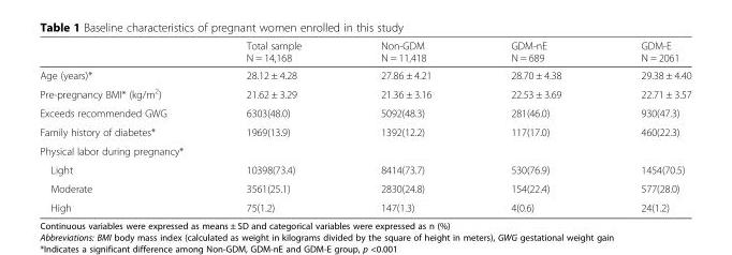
<table><thead><tr><td></td><td>Total sample N = 14,168</td><td>Non-GDM N = 11,418</td><td>GDM-nE N = 689</td><td>GDM-E N = 2061</td></tr></thead><tbody><tr><td>Age (years)*</td><td>28.12 ± 4.28</td><td>27.86 ± 4.21</td><td>28.70 ± 4.38</td><td>29.38 ± 4.40</td></tr><tr><td>Pre-pregnancy BMI* (kg/m<sup>2</sup>)</td><td>21.62 ± 3.29</td><td>21.36 ± 3.16</td><td>22.53 ± 3.69</td><td>22.71 ± 3.57</td></tr><tr><td>Exceeds recommended GWG</td><td>6303(48.0)</td><td>5092(48.3)</td><td>281(46.0)</td><td>930(47.3)</td></tr><tr><td>Family history of diabetes*</td><td>1969(13.9)</td><td>1392(12.2)</td><td>117(17.0)</td><td>460(22.3)</td></tr><tr><td colspan="5">Physical labor during pregnancy*</td></tr><tr><td>Light</td><td>10398(73.4)</td><td>8414(73.7)</td><td>530(76.9)</td><td>1454(70.5)</td></tr><tr><td>Moderate</td><td>3561(25.1)</td><td>2830(24.8)</td><td>154(22.4)</td><td>577(28.0)</td></tr><tr><td>High</td><td>75(1.2)</td><td>147(1.3)</td><td>4(0.6)</td><td>24(1.2)</td></tr></tbody></table>